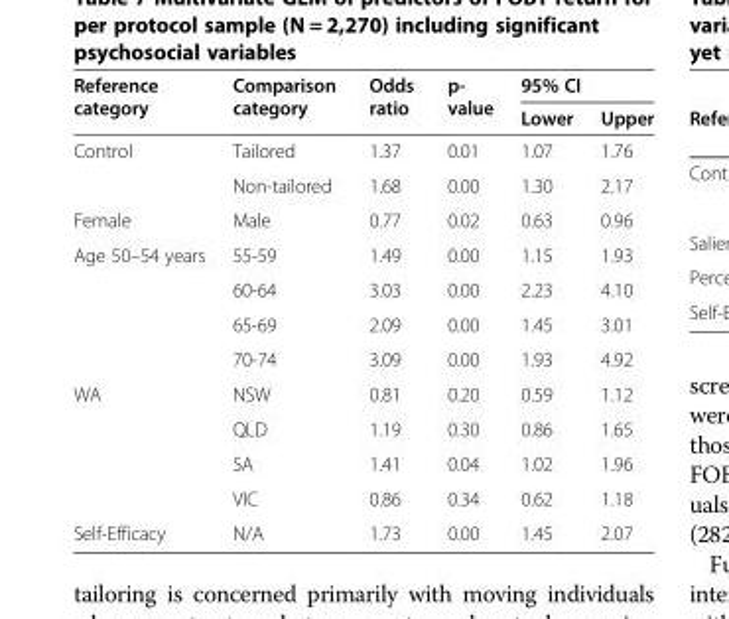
<table><thead><tr><td rowspan="2">Reference category</td><td rowspan="2">Comparison category</td><td rowspan="2">Odds ratio</td><td rowspan="2">p- value</td><td colspan="2">95% CI</td></tr><tr><td>Lower</td><td>Upper</td></tr></thead><tbody><tr><td rowspan="2">Control</td><td>Tailored</td><td>1.37</td><td>0.01</td><td>1.07</td><td>1.76</td></tr><tr><td>Non-tailored</td><td>1.68</td><td>0.00</td><td>1.30</td><td>2.17</td></tr><tr><td>Female</td><td>Male</td><td>0.77</td><td>0.02</td><td>0.63</td><td>0.96</td></tr><tr><td rowspan="4">Age 50–54 years</td><td>55-59</td><td>1.49</td><td>0.00</td><td>1.15</td><td>1.93</td></tr><tr><td>60-64</td><td>3.03</td><td>0.00</td><td>2.23</td><td>4.10</td></tr><tr><td>65-69</td><td>2.09</td><td>0.00</td><td>1.45</td><td>3.01</td></tr><tr><td>70-74</td><td>3.09</td><td>0.00</td><td>1.93</td><td>4.92</td></tr><tr><td rowspan="4">WA</td><td>NSW</td><td>0.81</td><td>0.20</td><td>0.59</td><td>1.12</td></tr><tr><td>QLD</td><td>1.19</td><td>0.30</td><td>0.86</td><td>1.65</td></tr><tr><td>SA</td><td>1.41</td><td>0.04</td><td>1.02</td><td>1.96</td></tr><tr><td>VIC</td><td>0.86</td><td>0.34</td><td>0.62</td><td>1.18</td></tr><tr><td>Self-Efficacy</td><td>N/A</td><td>1.73</td><td>0.00</td><td>1.45</td><td>2.07</td></tr></tbody></table>